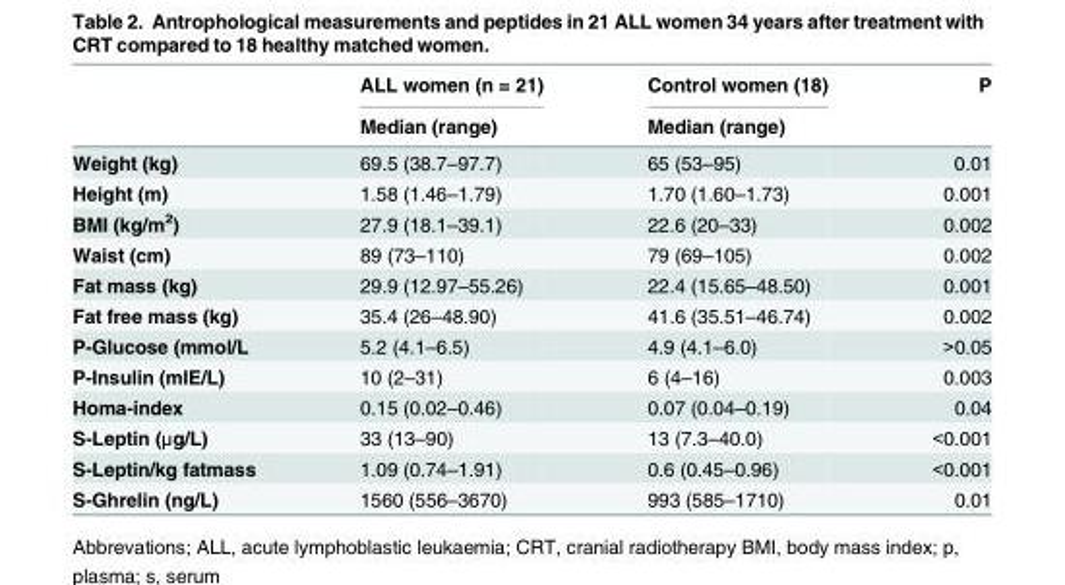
<table><thead><tr><td rowspan="2"></td><td rowspan="2">ALL women (n = 21) Median (range)</td><td rowspan="2">Control women (18) Median (range)</td><td rowspan="2">P</td></tr><tr></tr></thead><tbody><tr><td>Weight (kg)</td><td>69.5 (38.7–97.7)</td><td>65 (53–95)</td><td>0.01</td></tr><tr><td>Height (m)</td><td>1.58 (1.46–1.79)</td><td>1.70 (1.60–1.73)</td><td>0.001</td></tr><tr><td>BMI (kg/m<sup>2</sup>)</td><td>27.9 (18.1–39.1)</td><td>22.6 (20–33)</td><td>0.002</td></tr><tr><td>Waist (cm)</td><td>89 (73–110)</td><td>79 (69–105)</td><td>0.002</td></tr><tr><td>Fat mass (kg)</td><td>29.9 (12.97–55.26)</td><td>22.4 (15.65–48.50)</td><td>0.001</td></tr><tr><td>Fat free mass (kg)</td><td>35.4 (26–48.90)</td><td>41.6 (35.51–46.74)</td><td>0.002</td></tr><tr><td>P-Glucose (mmol/L</td><td>5.2 (4.1–6.5)</td><td>4.9 (4.1–6.0)</td><td>&gt;0.05</td></tr><tr><td>P-Insulin (mIE/L)</td><td>10 (2–31)</td><td>6 (4–16)</td><td>0.003</td></tr><tr><td>Homa-index</td><td>0.15 (0.02–0.46)</td><td>0.07 (0.04–0.19)</td><td>0.04</td></tr><tr><td>S-Leptin (μg/L)</td><td>33 (13–90)</td><td>13 (7.3–40.0)</td><td>&lt;0.001</td></tr><tr><td>S-Leptin/kg fatmass</td><td>1.09 (0.74–1.91)</td><td>0.6 (0.45–0.96)</td><td>&lt;0.001</td></tr><tr><td>S-Ghrelin (ng/L)</td><td>1560 (556–3670)</td><td>993 (585–1710)</td><td>0.01</td></tr></tbody></table>